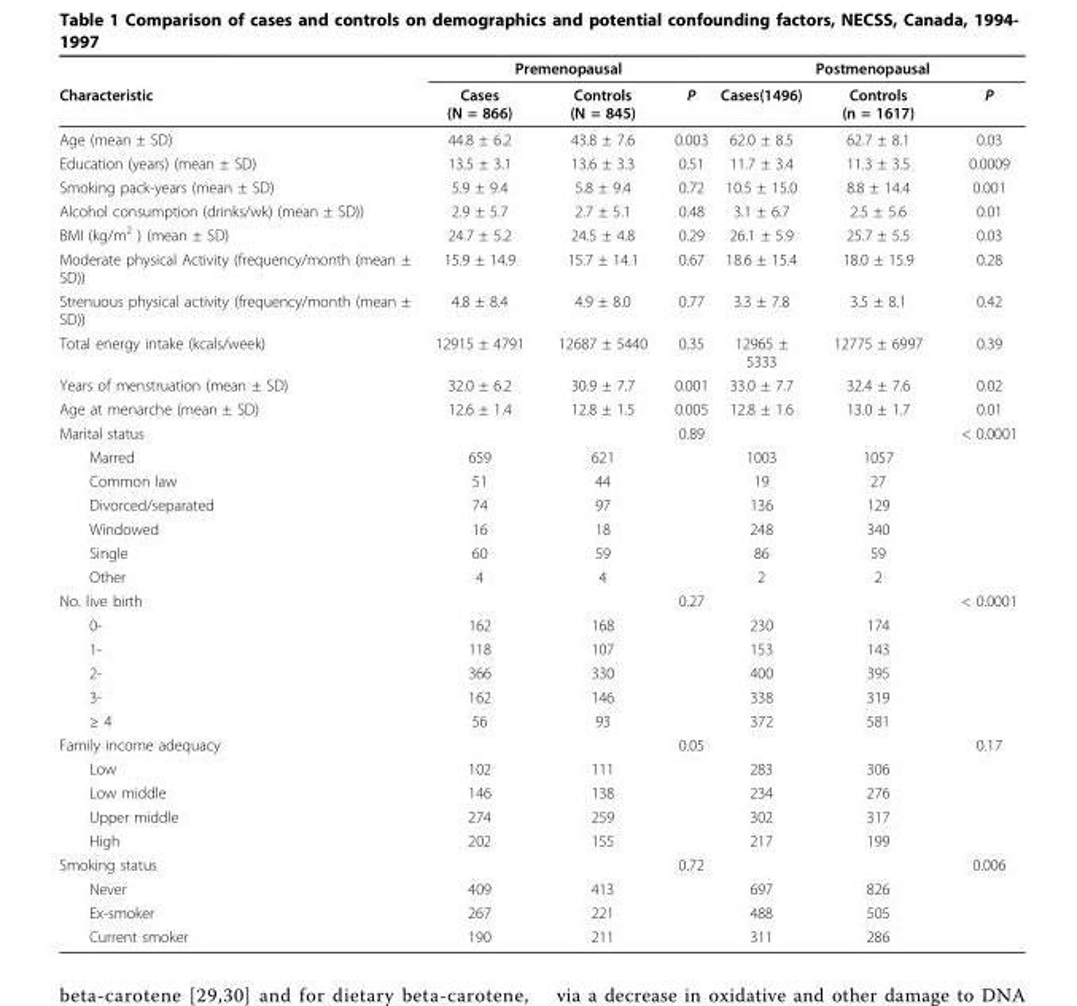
<table><thead><tr><td rowspan="2">Characteristic</td><td colspan="3">Premenopausal</td><td colspan="3">Postmenopausal</td></tr><tr><td>Cases (N = 866)</td><td>Controls (N = 845)</td><td>P</td><td>Cases(1496)</td><td>Controls (n = 1617)</td><td>P</td></tr></thead><tbody><tr><td>Age (mean ± SD)</td><td>44.8 ± 6.2</td><td>43.8 ± 7.6</td><td>0.003</td><td>62.0 ± 8.5</td><td>62.7 ± 8.1</td><td>0.03</td></tr><tr><td>Education (years) (mean ± SD)</td><td>13.5 ± 3.1</td><td>13.6 ± 3.3</td><td>0.51</td><td>11.7 ± 3.4</td><td>11.3 ± 3.5</td><td>0.0009</td></tr><tr><td>Smoking pack-years (mean ± SD)</td><td>5.9 ± 9.4</td><td>5.8 ± 9.4</td><td>0.72</td><td>10.5 ± 15.0</td><td>8.8 ± 14.4</td><td>0.001</td></tr><tr><td>Alcohol consumption (drinks/wk) (mean ± SD))</td><td>2.9 ± 5.7</td><td>2.7 ± 5.1</td><td>0.48</td><td>3.1 ± 6.7</td><td>2.5 ± 5.6</td><td>0.01</td></tr><tr><td>BMI (kg/m<sup>2</sup> ) (mean ± SD)</td><td>24.7 ± 5.2</td><td>24.5 ± 4.8</td><td>0.29</td><td>26.1 ± 5.9</td><td>25.7 ± 5.5</td><td>0.03</td></tr><tr><td>Moderate physical Activity (frequency/month (mean ± SD))</td><td>15.9 ± 14.9</td><td>15.7 ± 14.1</td><td>0.67</td><td>18.6 ± 15.4</td><td>18.0 ± 15.9</td><td>0.28</td></tr><tr><td>Strenuous physical activity (frequency/month (mean ± SD))</td><td>4.8 ± 8.4</td><td>4.9 ± 8.0</td><td>0.77</td><td>3.3 ± 7.8</td><td>3.5 ± 8.1</td><td>0.42</td></tr><tr><td>Total energy intake (kcals/week)</td><td>12915 ± 4791</td><td>12687 ± 5440</td><td>0.35</td><td>12965 ± 5333</td><td>12775 ± 6997</td><td>0.39</td></tr><tr><td>Years of menstruation (mean ± SD)</td><td>32.0 ± 6.2</td><td>30.9 ± 7.7</td><td>0.001</td><td>33.0 ± 7.7</td><td>32.4 ± 7.6</td><td>0.02</td></tr><tr><td>Age at menarche (mean ± SD)</td><td>12.6 ± 1.4</td><td>12.8 ± 1.5</td><td>0.005</td><td>12.8 ± 1.6</td><td>13.0 ± 1.7</td><td>0.01</td></tr><tr><td>Marital status</td><td></td><td></td><td>0.89</td><td></td><td></td><td>&lt; 0.0001</td></tr><tr><td>Marred</td><td>659</td><td>621</td><td></td><td>1003</td><td>1057</td><td></td></tr><tr><td>Common law</td><td>51</td><td>44</td><td></td><td>19</td><td>27</td><td></td></tr><tr><td>Divorced/separated</td><td>74</td><td>97</td><td></td><td>136</td><td>129</td><td></td></tr><tr><td>Windowed</td><td>16</td><td>18</td><td></td><td>248</td><td>340</td><td></td></tr><tr><td>Single</td><td>60</td><td>59</td><td></td><td>86</td><td>59</td><td></td></tr><tr><td>Other</td><td>4</td><td>4</td><td></td><td>2</td><td>2</td><td></td></tr><tr><td>No. live birth</td><td></td><td></td><td>0.27</td><td></td><td></td><td>&lt; 0.0001</td></tr><tr><td>0-</td><td>162</td><td>168</td><td></td><td>230</td><td>174</td><td></td></tr><tr><td>1-</td><td>118</td><td>107</td><td></td><td>153</td><td>143</td><td></td></tr><tr><td>2-</td><td>366</td><td>330</td><td></td><td>400</td><td>395</td><td></td></tr><tr><td>3-</td><td>162</td><td>146</td><td></td><td>338</td><td>319</td><td></td></tr><tr><td>≥ 4</td><td>56</td><td>93</td><td></td><td>372</td><td>581</td><td></td></tr><tr><td>Family income adequacy</td><td></td><td></td><td>0.05</td><td></td><td></td><td>0.17</td></tr><tr><td>Low</td><td>102</td><td>111</td><td></td><td>283</td><td>306</td><td></td></tr><tr><td>Low middle</td><td>146</td><td>138</td><td></td><td>234</td><td>276</td><td></td></tr><tr><td>Upper middle</td><td>274</td><td>259</td><td></td><td>302</td><td>317</td><td></td></tr><tr><td>High</td><td>202</td><td>155</td><td></td><td>217</td><td>199</td><td></td></tr><tr><td>Smoking status</td><td></td><td></td><td>0.72</td><td></td><td></td><td>0.006</td></tr><tr><td>Never</td><td>409</td><td>413</td><td></td><td>697</td><td>826</td><td></td></tr><tr><td>Ex-smoker</td><td>267</td><td>221</td><td></td><td>488</td><td>505</td><td></td></tr><tr><td>Current smoker</td><td>190</td><td>211</td><td></td><td>311</td><td>286</td><td></td></tr></tbody></table>